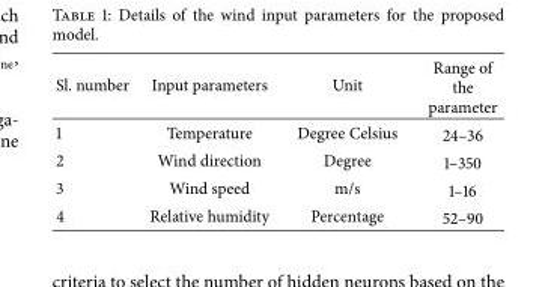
<table><thead><tr><td>Sl. number</td><td>Input parameters</td><td>Unit</td><td>Range of the parameter</td></tr></thead><tbody><tr><td>1</td><td>Temperature</td><td>Degree Celsius</td><td>24–36</td></tr><tr><td>2</td><td>Wind direction</td><td>Degree</td><td>1–350</td></tr><tr><td>3</td><td>Wind speed</td><td>m/s</td><td>1–16</td></tr><tr><td>4</td><td>Relative humidity</td><td>Percentage</td><td>52–90</td></tr></tbody></table>